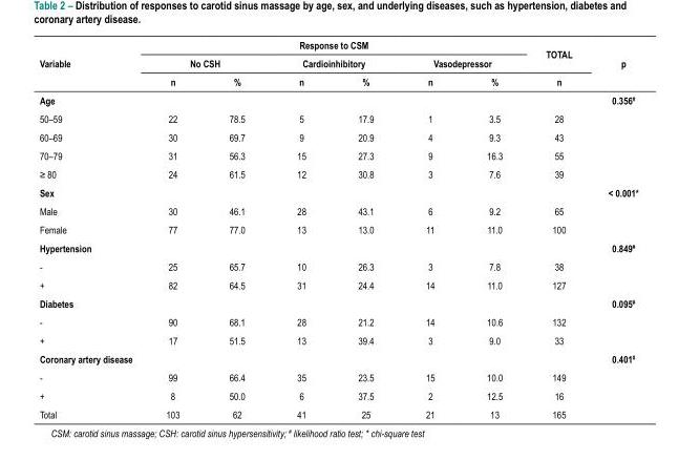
<table><thead><tr><td rowspan="3">Variable</td><td colspan="6">Response to CSM</td><td rowspan="3">TOTAL n</td><td rowspan="3">p</td></tr><tr><td colspan="2">No CSH</td><td colspan="2">Cardioinhibitory</td><td colspan="2">Vasodepressor</td></tr><tr><td>n</td><td>%</td><td>n</td><td>%</td><td>n</td><td>%</td></tr></thead><tbody><tr><td>Age</td><td></td><td></td><td></td><td></td><td></td><td></td><td></td><td>0.356<sup>#</sup></td></tr><tr><td>50–59</td><td>22</td><td>78.5</td><td>5</td><td>17.9</td><td>1</td><td>3.5</td><td>28</td><td></td></tr><tr><td>60–69</td><td>30</td><td>69.7</td><td>9</td><td>20.9</td><td>4</td><td>9.3</td><td>43</td><td></td></tr><tr><td>70–79</td><td>31</td><td>56.3</td><td>15</td><td>27.3</td><td>9</td><td>16.3</td><td>55</td><td></td></tr><tr><td>≥ 80</td><td>24</td><td>61.5</td><td>12</td><td>30.8</td><td>3</td><td>7.6</td><td>39</td><td></td></tr><tr><td>Sex</td><td></td><td></td><td></td><td></td><td></td><td></td><td></td><td>&lt; 0.001*</td></tr><tr><td>Male</td><td>30</td><td>46.1</td><td>28</td><td>43.1</td><td>6</td><td>9.2</td><td>65</td><td></td></tr><tr><td>Female</td><td>77</td><td>77.0</td><td>13</td><td>13.0</td><td>11</td><td>11.0</td><td>100</td><td></td></tr><tr><td>Hypertension</td><td></td><td></td><td></td><td></td><td></td><td></td><td></td><td>0.849<sup>#</sup></td></tr><tr><td>-</td><td>25</td><td>65.7</td><td>10</td><td>26.3</td><td>3</td><td>7.8</td><td>38</td><td></td></tr><tr><td>+</td><td>82</td><td>64.5</td><td>31</td><td>24.4</td><td>14</td><td>11.0</td><td>127</td><td></td></tr><tr><td>Diabetes</td><td></td><td></td><td></td><td></td><td></td><td></td><td></td><td>0.095<sup>#</sup></td></tr><tr><td>-</td><td>90</td><td>68.1</td><td>28</td><td>21.2</td><td>14</td><td>10.6</td><td>132</td><td></td></tr><tr><td>+</td><td>17</td><td>51.5</td><td>13</td><td>39.4</td><td>3</td><td>9.0</td><td>33</td><td></td></tr><tr><td>Coronary artery disease</td><td></td><td></td><td></td><td></td><td></td><td></td><td></td><td>0.401<sup>#</sup></td></tr><tr><td>-</td><td>99</td><td>66.4</td><td>35</td><td>23.5</td><td>15</td><td>10.0</td><td>149</td><td></td></tr><tr><td>+</td><td>8</td><td>50.0</td><td>6</td><td>37.5</td><td>2</td><td>12.5</td><td>16</td><td></td></tr><tr><td>Total</td><td>103</td><td>62</td><td>41</td><td>25</td><td>21</td><td>13</td><td>165</td><td></td></tr></tbody></table>